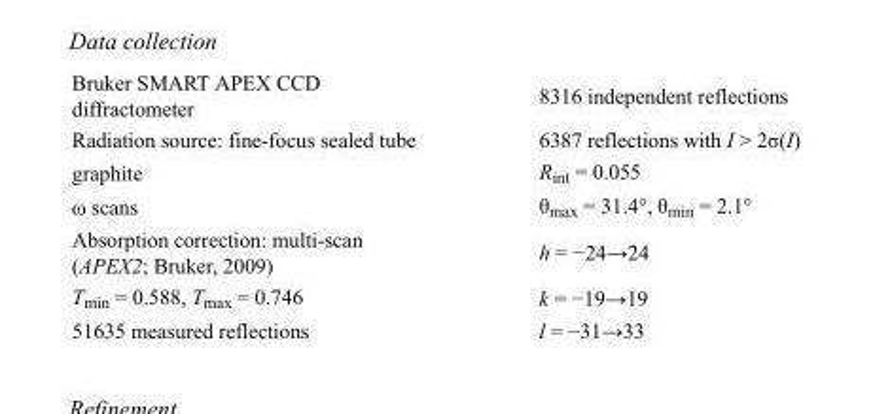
<table><tbody><tr><td>Bruker SMART APEX CCD diffractometer</td><td>8316 independent reflections</td></tr><tr><td>Radiation source: fine-focus sealed tube</td><td>6387 reflections with I &gt; 2σ(I)</td></tr><tr><td>graphite</td><td>R<sub>int</sub> = 0.055</td></tr><tr><td>ω scans</td><td>θ<sub>max</sub> = 31.4°, θ<sub>min</sub> = 2.1°</td></tr><tr><td>Absorption correction: multi-scan (APEX2; Bruker, 2009)</td><td>h = −24→24</td></tr><tr><td>T<sub>min</sub> = 0.588, T<sub>max</sub> = 0.746</td><td>k = −19→19</td></tr><tr><td>51635 measured reflections</td><td>l = −31→33</td></tr></tbody></table>